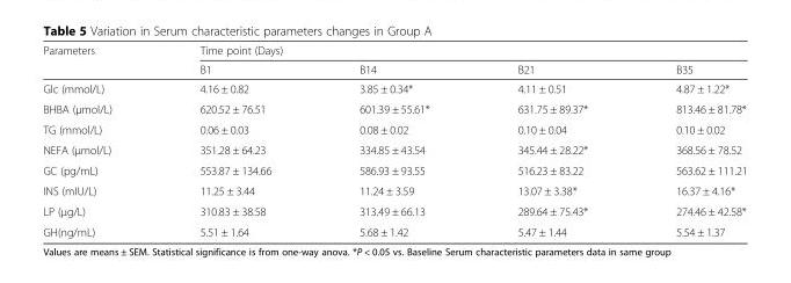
<table><thead><tr><td rowspan="2">Parameters</td><td colspan="4">Time point (Days)</td></tr><tr><td>B1</td><td>B14</td><td>B21</td><td>B35</td></tr></thead><tbody><tr><td>Glc (mmol/L)</td><td>4.16 ± 0.82</td><td>3.85 ± 0.34*</td><td>4.11 ± 0.51</td><td>4.87 ± 1.22*</td></tr><tr><td>BHBA (μmol/L)</td><td>620.52 ± 76.51</td><td>601.39 ± 55.61*</td><td>631.75 ± 89.37*</td><td>813.46 ± 81.78*</td></tr><tr><td>TG (mmol/L)</td><td>0.06 ± 0.03</td><td>0.08 ± 0.02</td><td>0.10 ± 0.04</td><td>0.10 ± 0.02</td></tr><tr><td>NEFA (μmol/L)</td><td>351.28 ± 64.23</td><td>334.85 ± 43.54</td><td>345.44 ± 28.22*</td><td>368.56 ± 78.52</td></tr><tr><td>GC (pg/mL)</td><td>553.87 ± 134.66</td><td>586.93 ± 93.55</td><td>516.23 ± 83.22</td><td>563.62 ± 111.21</td></tr><tr><td>INS (mIU/L)</td><td>11.25 ± 3.44</td><td>11.24 ± 3.59</td><td>13.07 ± 3.38*</td><td>16.37 ± 4.16*</td></tr><tr><td>LP (μg/L)</td><td>310.83 ± 38.58</td><td>313.49 ± 66.13</td><td>289.64 ± 75.43*</td><td>274.46 ± 42.58*</td></tr><tr><td>GH(ng/mL)</td><td>5.51 ± 1.64</td><td>5.68 ± 1.42</td><td>5.47 ± 1.44</td><td>5.54 ± 1.37</td></tr></tbody></table>